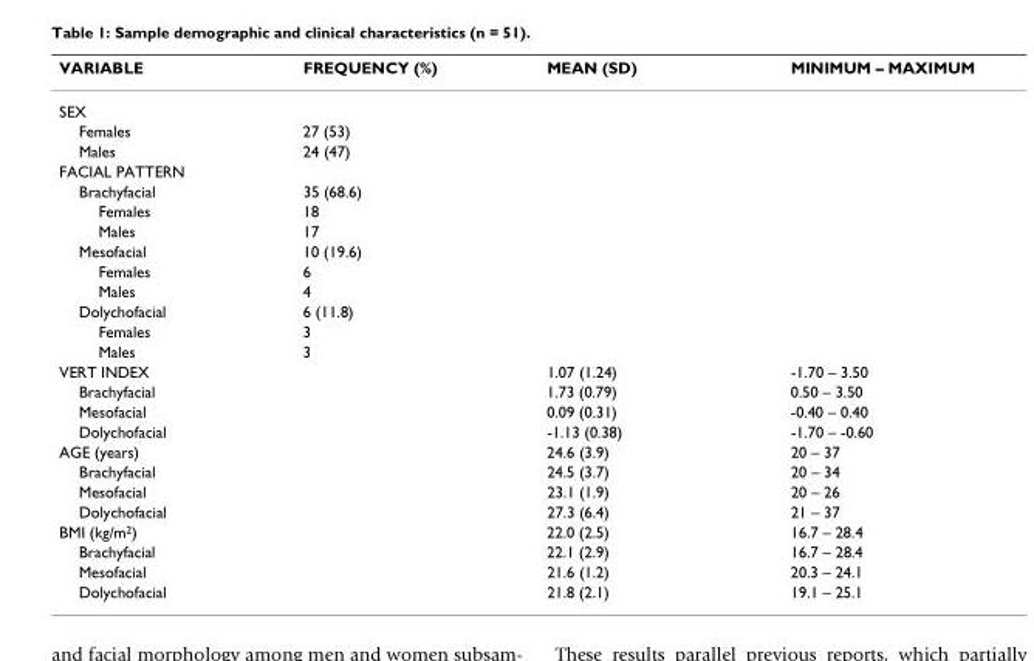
<table><thead><tr><td>VARIABLE</td><td>FREQUENCY (%)</td><td>MEAN (SD)</td><td>MINIMUM – MAXIMUM</td></tr></thead><tbody><tr><td colspan="4">SEX</td></tr><tr><td>Females</td><td>27 (53)</td><td></td><td></td></tr><tr><td>Males</td><td>24 (47)</td><td></td><td></td></tr><tr><td colspan="4">FACIAL PATTERN</td></tr><tr><td>Brachyfacial</td><td>35 (68.6)</td><td></td><td></td></tr><tr><td>Females</td><td>18</td><td></td><td></td></tr><tr><td>Males</td><td>17</td><td></td><td></td></tr><tr><td>Mesofacial</td><td>10 (19.6)</td><td></td><td></td></tr><tr><td>Females</td><td>6</td><td></td><td></td></tr><tr><td>Males</td><td>4</td><td></td><td></td></tr><tr><td>Dolychofacial</td><td>6 (11.8)</td><td></td><td></td></tr><tr><td>Females</td><td>3</td><td></td><td></td></tr><tr><td>Males</td><td>3</td><td></td><td></td></tr><tr><td>VERT INDEX</td><td></td><td>1.07 (1.24)</td><td>-1.70 – 3.50</td></tr><tr><td>Brachyfacial</td><td></td><td>1.73 (0.79)</td><td>0.50 – 3.50</td></tr><tr><td>Mesofacial</td><td></td><td>0.09 (0.31)</td><td>-0.40 – 0.40</td></tr><tr><td>Dolychofacial</td><td></td><td>-1.13 (0.38)</td><td>-1.70 – -0.60</td></tr><tr><td>AGE (years)</td><td></td><td>24.6 (3.9)</td><td>20 – 37</td></tr><tr><td>Brachyfacial</td><td></td><td>24.5 (3.7)</td><td>20 – 34</td></tr><tr><td>Mesofacial</td><td></td><td>23.1 (1.9)</td><td>20 – 26</td></tr><tr><td>Dolychofacial</td><td></td><td>27.3 (6.4)</td><td>21 – 37</td></tr><tr><td>BMI (kg/m<sup>2</sup>)</td><td></td><td>22.0 (2.5)</td><td>16.7 – 28.4</td></tr><tr><td>Brachyfacial</td><td></td><td>22.1 (2.9)</td><td>16.7 – 28.4</td></tr><tr><td>Mesofacial</td><td></td><td>21.6 (1.2)</td><td>20.3 – 24.1</td></tr><tr><td>Dolychofacial</td><td></td><td>21.8 (2.1)</td><td>19.1 – 25.1</td></tr></tbody></table>